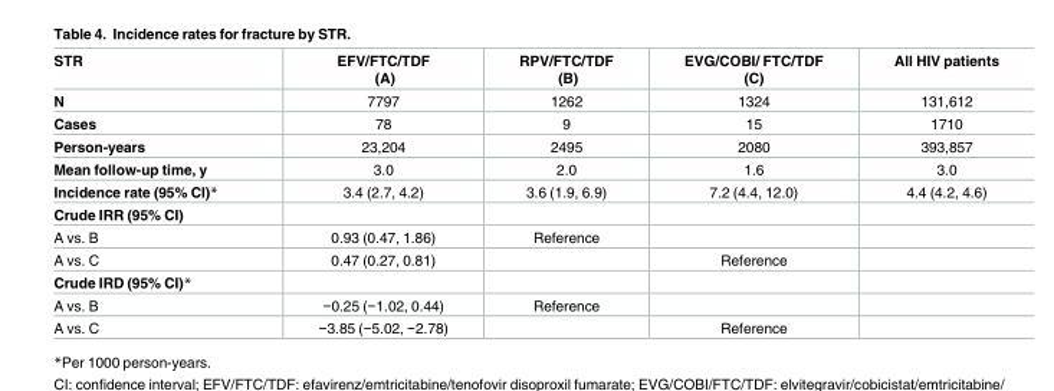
<table><thead><tr><td>STR</td><td>EFV/FTC/TDF (A)</td><td>RPV/FTC/TDF (B)</td><td>EVG/COBI/ FTC/TDF (C)</td><td>All HIV patients</td></tr></thead><tbody><tr><td>N</td><td>7797</td><td>1262</td><td>1324</td><td>131,612</td></tr><tr><td>Cases</td><td>78</td><td>9</td><td>15</td><td>1710</td></tr><tr><td>Person-years</td><td>23,204</td><td>2495</td><td>2080</td><td>393,857</td></tr><tr><td>Mean follow-up time, y</td><td>3.0</td><td>2.0</td><td>1.6</td><td>3.0</td></tr><tr><td>Incidence rate (95% CI)*</td><td>3.4 (2.7, 4.2)</td><td>3.6 (1.9, 6.9)</td><td>7.2 (4.4, 12.0)</td><td>4.4 (4.2, 4.6)</td></tr><tr><td colspan="5">Crude IRR (95% CI)</td></tr><tr><td>A vs. B</td><td>0.93 (0.47, 1.86)</td><td>Reference</td><td></td><td></td></tr><tr><td>A vs. C</td><td>0.47 (0.27, 0.81)</td><td></td><td>Reference</td><td></td></tr><tr><td colspan="5">Crude IRD (95% CI)*</td></tr><tr><td>A vs. B</td><td>−0.25 (−1.02, 0.44)</td><td>Reference</td><td></td><td></td></tr><tr><td>A vs. C</td><td>−3.85 (−5.02, −2.78)</td><td></td><td>Reference</td><td></td></tr></tbody></table>